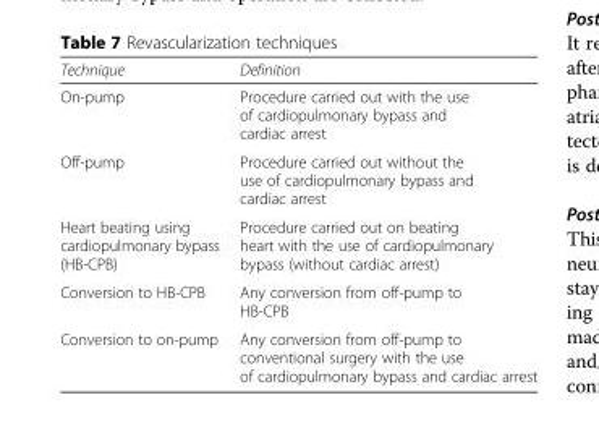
<table><thead><tr><td>Technique</td><td>Definition</td></tr></thead><tbody><tr><td>On-pump</td><td>Procedure carried out with the use of cardiopulmonary bypass and cardiac arrest</td></tr><tr><td>Off-pump</td><td>Procedure carried out without the use of cardiopulmonary bypass and cardiac arrest</td></tr><tr><td>Heart beating using cardiopulmonary bypass (HB-CPB)</td><td>Procedure carried out on beating heart with the use of cardiopulmonary bypass (without cardiac arrest)</td></tr><tr><td>Conversion to HB-CPB</td><td>Any conversion from off-pump to HB-CPB</td></tr><tr><td>Conversion to on-pump</td><td>Any conversion from off-pump to conventional surgery with the use of cardiopulmonary bypass and cardiac arrest</td></tr></tbody></table>